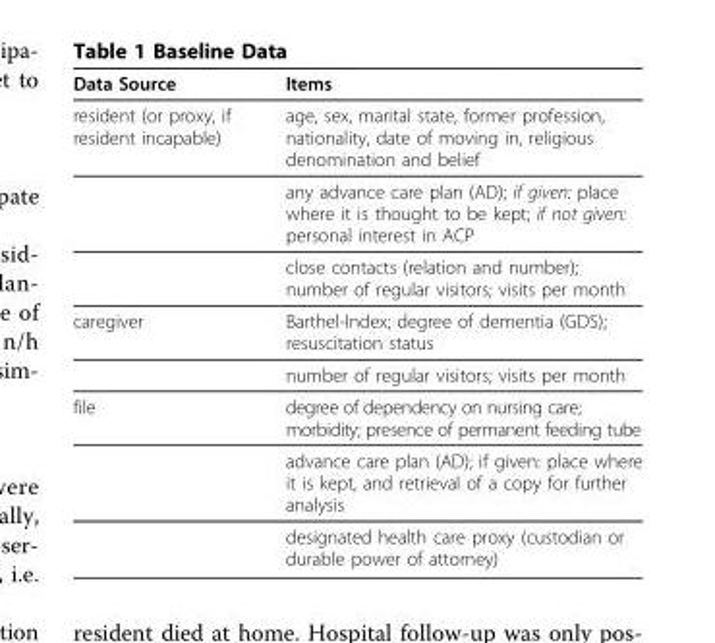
<table><thead><tr><td>Data Source</td><td>Items</td></tr></thead><tbody><tr><td rowspan="3">resident (or proxy, if resident incapable)</td><td>age, sex, marital state, former profession, nationality, date of moving in, religious denomination and belief</td></tr><tr><td>any advance care plan (AD); if given: place where it is thought to be kept; if not given: personal interest in ACP</td></tr><tr><td>close contacts (relation and number); number of regular visitors; visits per month</td></tr><tr><td rowspan="2">caregiver</td><td>Barthel-Index; degree of dementia (GDS); resuscitation status</td></tr><tr><td>number of regular visitors; visits per month</td></tr><tr><td rowspan="3">file</td><td>degree of dependency on nursing care; morbidity; presence of permanent feeding tube</td></tr><tr><td>advance care plan (AD); if given: place where it is kept, and retrieval of a copy for further analysis</td></tr><tr><td>designated health care proxy (custodian or durable power of attorney)</td></tr></tbody></table>